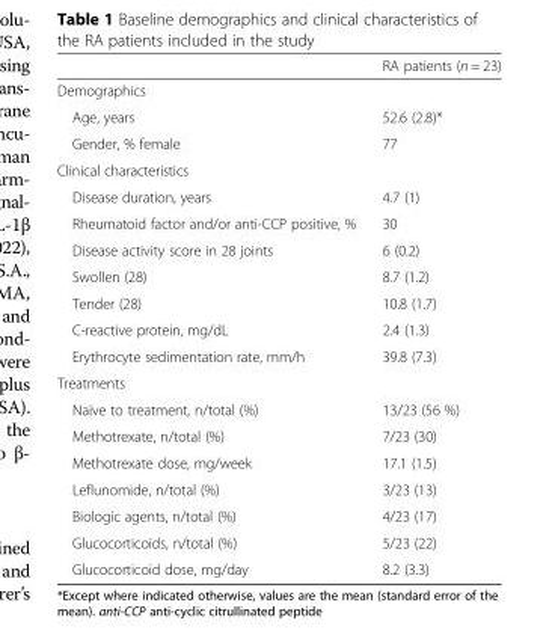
<table><thead><tr><td></td><td>RA patients (n = 23)</td></tr></thead><tbody><tr><td colspan="2">Demographics</td></tr><tr><td>Age, years</td><td>52.6 (2.8)*</td></tr><tr><td>Gender, % female</td><td>77</td></tr><tr><td colspan="2">Clinical characteristics</td></tr><tr><td>Disease duration, years</td><td>4.7 (1)</td></tr><tr><td>Rheumatoid factor and/or anti-CCP positive, %</td><td>30</td></tr><tr><td>Disease activity score in 28 joints</td><td>6 (0.2)</td></tr><tr><td>Swollen (28)</td><td>8.7 (1.2)</td></tr><tr><td>Tender (28)</td><td>10.8 (1.7)</td></tr><tr><td>C-reactive protein, mg/dL</td><td>2.4 (1.3)</td></tr><tr><td>Erythrocyte sedimentation rate, mm/h</td><td>39.8 (7.3)</td></tr><tr><td colspan="2">Treatments</td></tr><tr><td>Naïve to treatment, n/total (%)</td><td>13/23 (56 %)</td></tr><tr><td>Methotrexate, n/total (%)</td><td>7/23 (30)</td></tr><tr><td>Methotrexate dose, mg/week</td><td>17.1 (1.5)</td></tr><tr><td>Leflunomide, n/total (%)</td><td>3/23 (13)</td></tr><tr><td>Biologic agents, n/total (%)</td><td>4/23 (17)</td></tr><tr><td>Glucocorticoids, n/total (%)</td><td>5/23 (22)</td></tr><tr><td>Glucocorticoid dose, mg/day</td><td>8.2 (3.3)</td></tr></tbody></table>